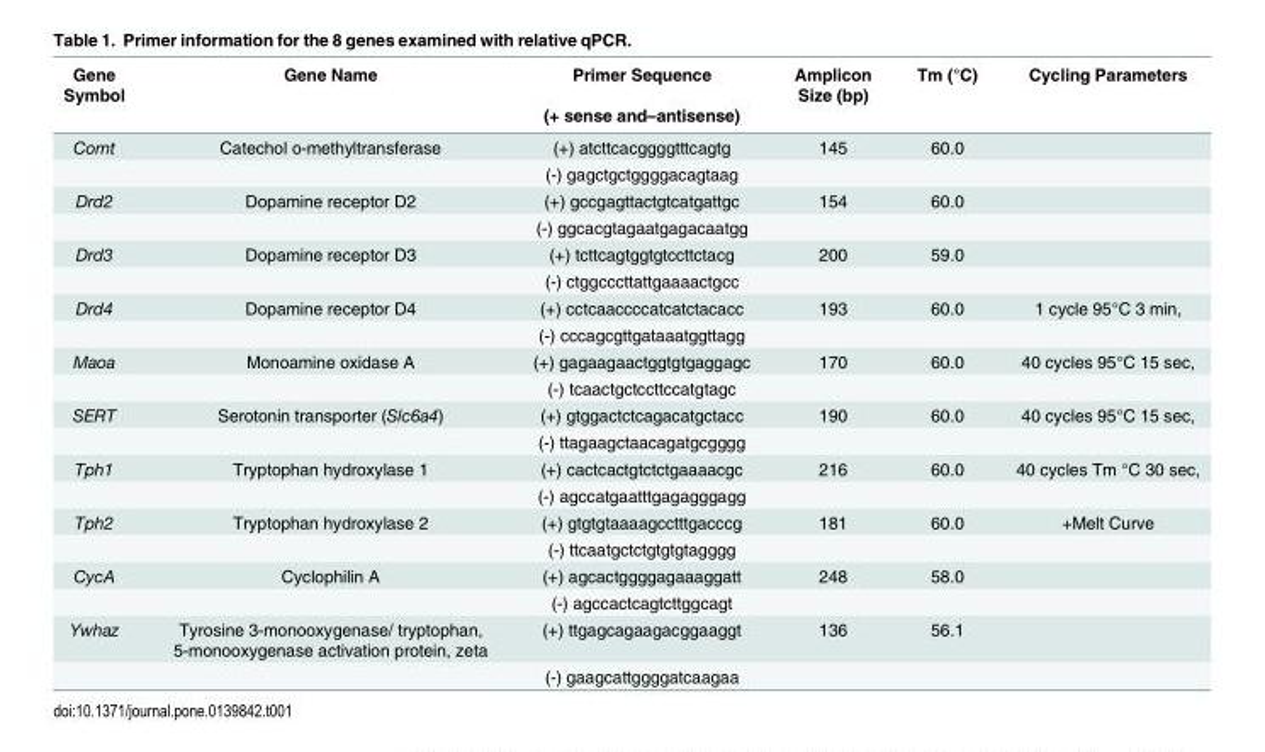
<table><thead><tr><td rowspan="2">Gene Symbol</td><td rowspan="2">Gene Name</td><td rowspan="2">Primer Sequence (+ sense and–antisense)</td><td rowspan="2">Amplicon Size (bp)</td><td rowspan="2">Tm (°C)</td><td rowspan="2">Cycling Parameters</td></tr><tr></tr></thead><tbody><tr><td rowspan="2">Comt</td><td>Catechol o-methyltransferase</td><td>(+) atcttcacggggtttcagtg</td><td>145</td><td>60.0</td><td></td></tr><tr><td></td><td>(-) gagctgctggggacagtaag</td><td></td><td></td><td></td></tr><tr><td rowspan="2">Drd2</td><td>Dopamine receptor D2</td><td>(+) gccgagttactgtcatgattgc</td><td>154</td><td>60.0</td><td></td></tr><tr><td></td><td>(-) ggcacgtagaatgagacaatgg</td><td></td><td></td><td></td></tr><tr><td rowspan="2">Drd3</td><td>Dopamine receptor D3</td><td>(+) tcttcagtggtgtccttctacg</td><td>200</td><td>59.0</td><td></td></tr><tr><td></td><td>(-) ctggcccttattgaaaactgcc</td><td></td><td></td><td></td></tr><tr><td rowspan="2">Drd4</td><td>Dopamine receptor D4</td><td>(+) cctcaaccccatcatctacacc</td><td>193</td><td>60.0</td><td>1 cycle 95°C 3 min,</td></tr><tr><td></td><td>(-) cccagcgttgataaatggttagg</td><td></td><td></td><td></td></tr><tr><td rowspan="2">Maoa</td><td>Monoamine oxidase A</td><td>(+) gagaagaactggtgtgaggagc</td><td>170</td><td>60.0</td><td>40 cycles 95°C 15 sec,</td></tr><tr><td></td><td>(-) tcaactgctccttccatgtagc</td><td></td><td></td><td></td></tr><tr><td rowspan="2">SERT</td><td>Serotonin transporter (Slc6a4)</td><td>(+) gtggactctcagacatgctacc</td><td>190</td><td>60.0</td><td>40 cycles 95°C 15 sec,</td></tr><tr><td></td><td>(-) ttagaagctaacagatgcgggg</td><td></td><td></td><td></td></tr><tr><td rowspan="2">Tph1</td><td>Tryptophan hydroxylase 1</td><td>(+) cactcactgtctctgaaaacgc</td><td>216</td><td>60.0</td><td>40 cycles Tm °C 30 sec,</td></tr><tr><td></td><td>(-) agccatgaatttgagagggagg</td><td></td><td></td><td></td></tr><tr><td rowspan="2">Tph2</td><td>Tryptophan hydroxylase 2</td><td>(+) gtgtgtaaaagcctttgacccg</td><td>181</td><td>60.0</td><td>+Melt Curve</td></tr><tr><td></td><td>(-) ttcaatgctctgtgtgtagggg</td><td></td><td></td><td></td></tr><tr><td rowspan="2">CycA</td><td>Cyclophilin A</td><td>(+) agcactggggagaaaggatt</td><td>248</td><td>58.0</td><td></td></tr><tr><td></td><td>(-) agccactcagtcttggcagt</td><td></td><td></td><td></td></tr><tr><td rowspan="2">Ywhaz</td><td>Tyrosine 3-monooxygenase/ tryptophan, 5-monooxygenase activation protein, zeta</td><td>(+) ttgagcagaagacggaaggt</td><td>136</td><td>56.1</td><td></td></tr><tr><td></td><td>(-) gaagcattggggatcaagaa</td><td></td><td></td><td></td></tr></tbody></table>